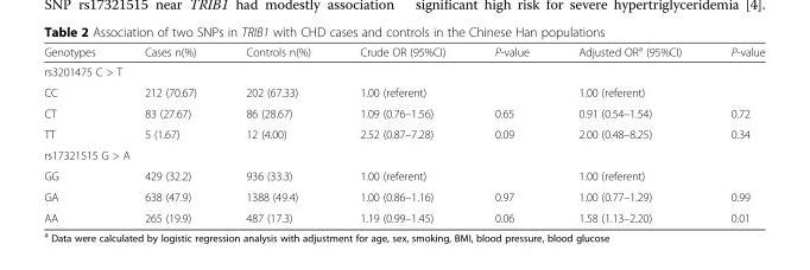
<table><thead><tr><td>Genotypes</td><td>Cases n(%)</td><td>Controls n(%)</td><td>Crude OR (95%CI)</td><td>P-value</td><td>Adjusted OR<sup>a</sup> (95%CI)</td><td>P-value</td></tr></thead><tbody><tr><td colspan="7">rs3201475 C &gt; T</td></tr><tr><td>CC</td><td>212 (70.67)</td><td>202 (67.33)</td><td>1.00 (referent)</td><td></td><td>1.00 (referent)</td><td></td></tr><tr><td>CT</td><td>83 (27.67)</td><td>86 (28.67)</td><td>1.09 (0.76–1.56)</td><td>0.65</td><td>0.91 (0.54–1.54)</td><td>0.72</td></tr><tr><td>TT</td><td>5 (1.67)</td><td>12 (4.00)</td><td>2.52 (0.87–7.28)</td><td>0.09</td><td>2.00 (0.48–8.25)</td><td>0.34</td></tr><tr><td colspan="7">rs17321515 G &gt; A</td></tr><tr><td>GG</td><td>429 (32.2)</td><td>936 (33.3)</td><td>1.00 (referent)</td><td></td><td>1.00 (referent)</td><td></td></tr><tr><td>GA</td><td>638 (47.9)</td><td>1388 (49.4)</td><td>1.00 (0.86–1.16)</td><td>0.97</td><td>1.00 (0.77–1.29)</td><td>0.99</td></tr><tr><td>AA</td><td>265 (19.9)</td><td>487 (17.3)</td><td>1.19 (0.99–1.45)</td><td>0.06</td><td>1.58 (1.13–2.20)</td><td>0.01</td></tr></tbody></table>